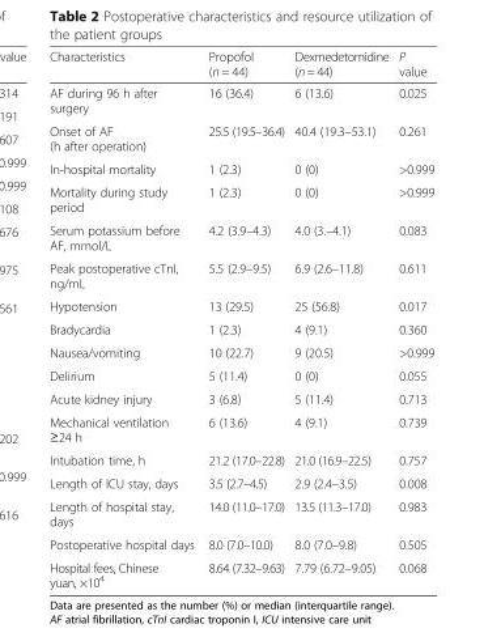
<table><thead><tr><td>Characteristics</td><td>Propofol (n = 44)</td><td>Dexmedetomidine (n = 44)</td><td>P value</td></tr></thead><tbody><tr><td>AF during 96 h after surgery</td><td>16 (36.4)</td><td>6 (13.6)</td><td>0.025</td></tr><tr><td>Onset of AF (h after operation)</td><td>25.5 (19.5–36.4)</td><td>40.4 (19.3–53.1)</td><td>0.261</td></tr><tr><td>In-hospital mortality</td><td>1 (2.3)</td><td>0 (0)</td><td>&gt;0.999</td></tr><tr><td>Mortality during study period</td><td>1 (2.3)</td><td>0 (0)</td><td>&gt;0.999</td></tr><tr><td>Serum potassium before AF, mmol/L</td><td>4.2 (3.9–4.3)</td><td>4.0 (3.–4.1)</td><td>0.083</td></tr><tr><td>Peak postoperative cTnI, ng/mL</td><td>5.5 (2.9–9.5)</td><td>6.9 (2.6–11.8)</td><td>0.611</td></tr><tr><td>Hypotension</td><td>13 (29.5)</td><td>25 (56.8)</td><td>0.017</td></tr><tr><td>Bradycardia</td><td>1 (2.3)</td><td>4 (9.1)</td><td>0.360</td></tr><tr><td>Nausea/vomiting</td><td>10 (22.7)</td><td>9 (20.5)</td><td>&gt;0.999</td></tr><tr><td>Delirium</td><td>5 (11.4)</td><td>0 (0)</td><td>0.055</td></tr><tr><td>Acute kidney injury</td><td>3 (6.8)</td><td>5 (11.4)</td><td>0.713</td></tr><tr><td>Mechanical ventilation ≥24 h</td><td>6 (13.6)</td><td>4 (9.1)</td><td>0.739</td></tr><tr><td>Intubation time, h</td><td>21.2 (17.0–22.8)</td><td>21.0 (16.9–22.5)</td><td>0.757</td></tr><tr><td>Length of ICU stay, days</td><td>3.5 (2.7–4.5)</td><td>2.9 (2.4–3.5)</td><td>0.008</td></tr><tr><td>Length of hospital stay, days</td><td>14.0 (11.0–17.0)</td><td>13.5 (11.3–17.0)</td><td>0.983</td></tr><tr><td>Postoperative hospital days</td><td>8.0 (7.0–10.0)</td><td>8.0 (7.0–9.8)</td><td>0.505</td></tr><tr><td>Hospital fees, Chinese yuan, ×10<sup>4</sup></td><td>8.64 (7.32–9.63)</td><td>7.79 (6.72–9.05)</td><td>0.068</td></tr></tbody></table>